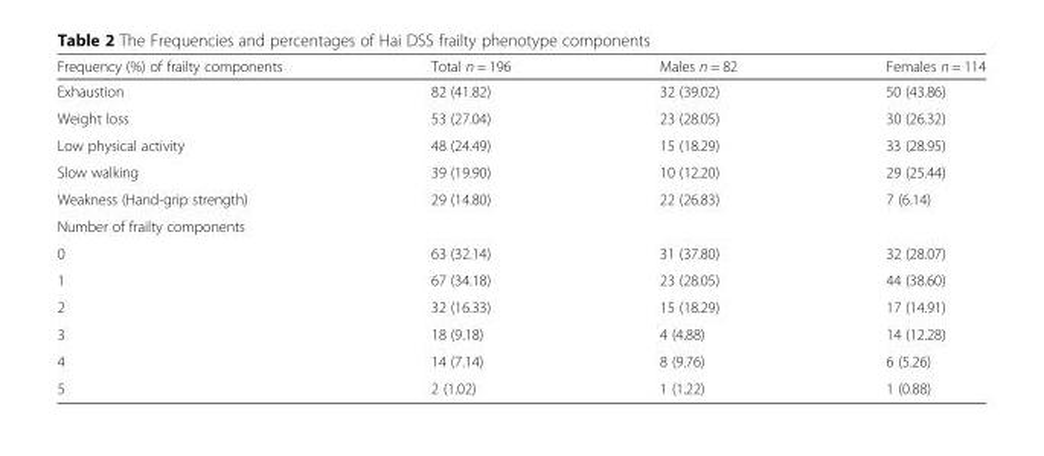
<table><thead><tr><td>Frequency (%) of frailty components</td><td>Total n = 196</td><td>Males n = 82</td><td>Females n = 114</td></tr></thead><tbody><tr><td>Exhaustion</td><td>82 (41.82)</td><td>32 (39.02)</td><td>50 (43.86)</td></tr><tr><td>Weight loss</td><td>53 (27.04)</td><td>23 (28.05)</td><td>30 (26.32)</td></tr><tr><td>Low physical activity</td><td>48 (24.49)</td><td>15 (18.29)</td><td>33 (28.95)</td></tr><tr><td>Slow walking</td><td>39 (19.90)</td><td>10 (12.20)</td><td>29 (25.44)</td></tr><tr><td>Weakness (Hand-grip strength)</td><td>29 (14.80)</td><td>22 (26.83)</td><td>7 (6.14)</td></tr><tr><td colspan="4">Number of frailty components</td></tr><tr><td>0</td><td>63 (32.14)</td><td>31 (37.80)</td><td>32 (28.07)</td></tr><tr><td>1</td><td>67 (34.18)</td><td>23 (28.05)</td><td>44 (38.60)</td></tr><tr><td>2</td><td>32 (16.33)</td><td>15 (18.29)</td><td>17 (14.91)</td></tr><tr><td>3</td><td>18 (9.18)</td><td>4 (4.88)</td><td>14 (12.28)</td></tr><tr><td>4</td><td>14 (7.14)</td><td>8 (9.76)</td><td>6 (5.26)</td></tr><tr><td>5</td><td>2 (1.02)</td><td>1 (1.22)</td><td>1 (0.88)</td></tr></tbody></table>